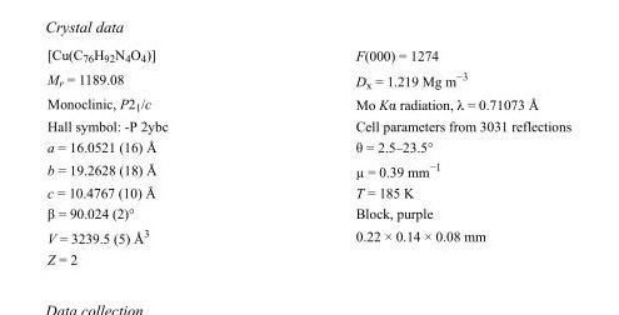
<table><tbody><tr><td>[Cu(C<sub>76</sub>H<sub>92</sub>N<sub>4</sub>O<sub>4</sub>)]</td><td>F(000) = 1274</td></tr><tr><td>M<sub>r</sub> = 1189.08</td><td>D<sub>x</sub> = 1.219 Mg m<sup>−3</sup></td></tr><tr><td>Monoclinic, P2<sub>1</sub>/c</td><td>Mo Kα radiation, λ = 0.71073 Å</td></tr><tr><td>Hall symbol: -P 2ybc</td><td>Cell parameters from 3031 reflections</td></tr><tr><td>a = 16.0521 (16) Å</td><td>θ = 2.5–23.5°</td></tr><tr><td>b = 19.2628 (18) Å</td><td>µ = 0.39 mm<sup>−1</sup></td></tr><tr><td>c = 10.4767 (10) Å</td><td>T = 185 K</td></tr><tr><td>β = 90.024 (2)°</td><td>Block, purple</td></tr><tr><td>V = 3239.5 (5) Å<sup>3</sup></td><td>0.22 × 0.14 × 0.08 mm</td></tr><tr><td>Z = 2</td><td></td></tr></tbody></table>